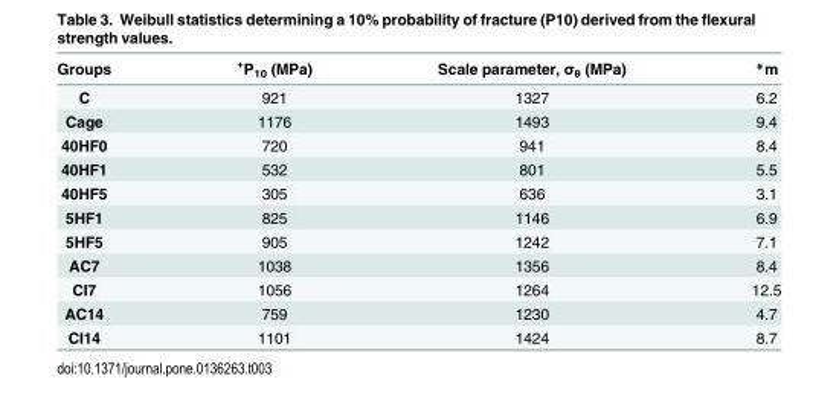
<table><thead><tr><td>Groups</td><td><sup>+</sup>P<sub>10</sub> (MPa)</td><td>Scale parameter, σ<sub>θ</sub> (MPa)</td><td>*m</td></tr></thead><tbody><tr><td>C</td><td>921</td><td>1327</td><td>6.2</td></tr><tr><td>Cage</td><td>1176</td><td>1493</td><td>9.4</td></tr><tr><td>40HF0</td><td>720</td><td>941</td><td>8.4</td></tr><tr><td>40HF1</td><td>532</td><td>801</td><td>5.5</td></tr><tr><td>40HF5</td><td>305</td><td>636</td><td>3.1</td></tr><tr><td>5HF1</td><td>825</td><td>1146</td><td>6.9</td></tr><tr><td>5HF5</td><td>905</td><td>1242</td><td>7.1</td></tr><tr><td>AC7</td><td>1038</td><td>1356</td><td>8.4</td></tr><tr><td>CI7</td><td>1056</td><td>1264</td><td>12.5</td></tr><tr><td>AC14</td><td>759</td><td>1230</td><td>4.7</td></tr><tr><td>CI14</td><td>1101</td><td>1424</td><td>8.7</td></tr></tbody></table>